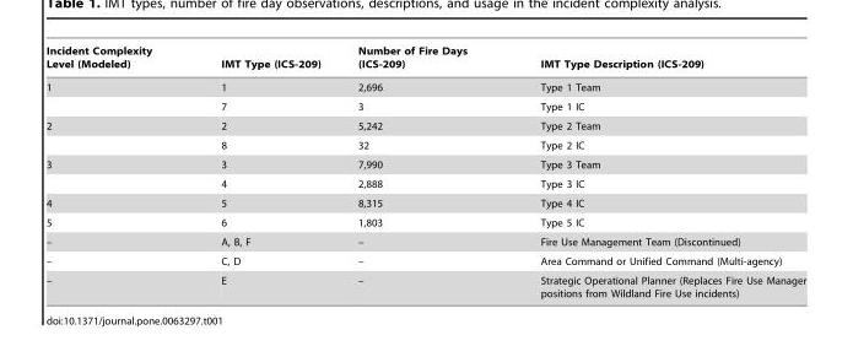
<table><thead><tr><td>Incident Complexity Level (Modeled)</td><td>IMT Type (ICS-209)</td><td>Number of Fire Days (ICS-209)</td><td>IMT Type Description (ICS-209)</td></tr></thead><tbody><tr><td rowspan="2">1</td><td>1</td><td>2,696</td><td>Type 1 Team</td></tr><tr><td>7</td><td>3</td><td>Type 1 IC</td></tr><tr><td rowspan="2">2</td><td>2</td><td>5,242</td><td>Type 2 Team</td></tr><tr><td>8</td><td>32</td><td>Type 2 IC</td></tr><tr><td rowspan="2">3</td><td>3</td><td>7,990</td><td>Type 3 Team</td></tr><tr><td>4</td><td>2,888</td><td>Type 3 IC</td></tr><tr><td>4</td><td>5</td><td>8,315</td><td>Type 4 IC</td></tr><tr><td>5</td><td>6</td><td>1,803</td><td>Type 5 IC</td></tr><tr><td>–</td><td>A, B, F</td><td>–</td><td>Fire Use Management Team (Discontinued)</td></tr><tr><td>–</td><td>C, D</td><td>–</td><td>Area Command or Unified Command (Multi-agency)</td></tr><tr><td>–</td><td>E</td><td>–</td><td>Strategic Operational Planner (Replaces Fire Use Manager positions from Wildland Fire Use incidents)</td></tr></tbody></table>